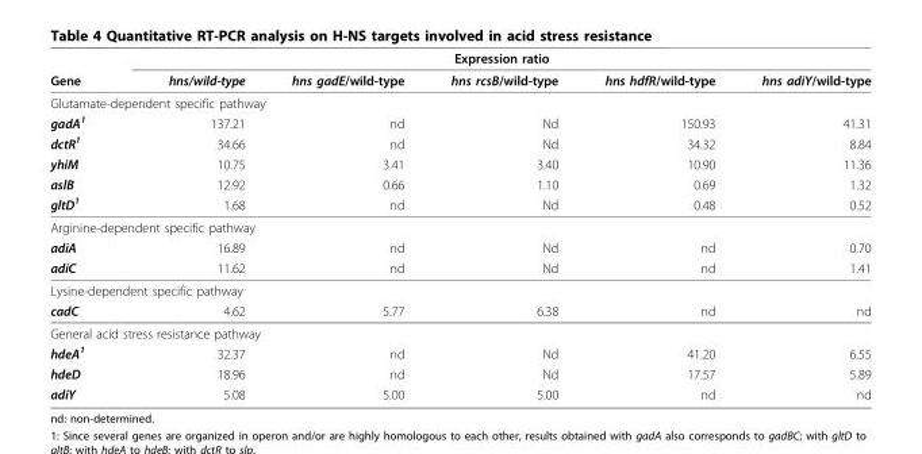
<table><thead><tr><td rowspan="2">Gene</td><td colspan="5">Expression ratio</td></tr><tr><td>hns/wild-type</td><td>hns gadE/wild-type</td><td>hns rcsB/wild-type</td><td>hns hdfR/wild-type</td><td>hns adiY/wild-type</td></tr></thead><tbody><tr><td colspan="6">Glutamate-dependent specific pathway</td></tr><tr><td>gadA<sup>1</sup></td><td>137.21</td><td>nd</td><td>Nd</td><td>150.93</td><td>41.31</td></tr><tr><td>dctR<sup>1</sup></td><td>34.66</td><td>nd</td><td>Nd</td><td>34.32</td><td>8.84</td></tr><tr><td>yhiM</td><td>10.75</td><td>3.41</td><td>3.40</td><td>10.90</td><td>11.36</td></tr><tr><td>aslB</td><td>12.92</td><td>0.66</td><td>1.10</td><td>0.69</td><td>1.32</td></tr><tr><td>gltD<sup>1</sup></td><td>1.68</td><td>nd</td><td>Nd</td><td>0.48</td><td>0.52</td></tr><tr><td colspan="6">Arginine-dependent specific pathway</td></tr><tr><td>adiA</td><td>16.89</td><td>nd</td><td>Nd</td><td>nd</td><td>0.70</td></tr><tr><td>adiC</td><td>11.62</td><td>nd</td><td>Nd</td><td>nd</td><td>1.41</td></tr><tr><td colspan="6">Lysine-dependent specific pathway</td></tr><tr><td>cadC</td><td>4.62</td><td>5.77</td><td>6.38</td><td>nd</td><td>nd</td></tr><tr><td colspan="6">General acid stress resistance pathway</td></tr><tr><td>hdeA<sup>1</sup></td><td>32.37</td><td>nd</td><td>Nd</td><td>41.20</td><td>6.55</td></tr><tr><td>hdeD</td><td>18.96</td><td>nd</td><td>Nd</td><td>17.57</td><td>5.89</td></tr><tr><td>adiY</td><td>5.08</td><td>5.00</td><td>5.00</td><td>nd</td><td>nd</td></tr></tbody></table>